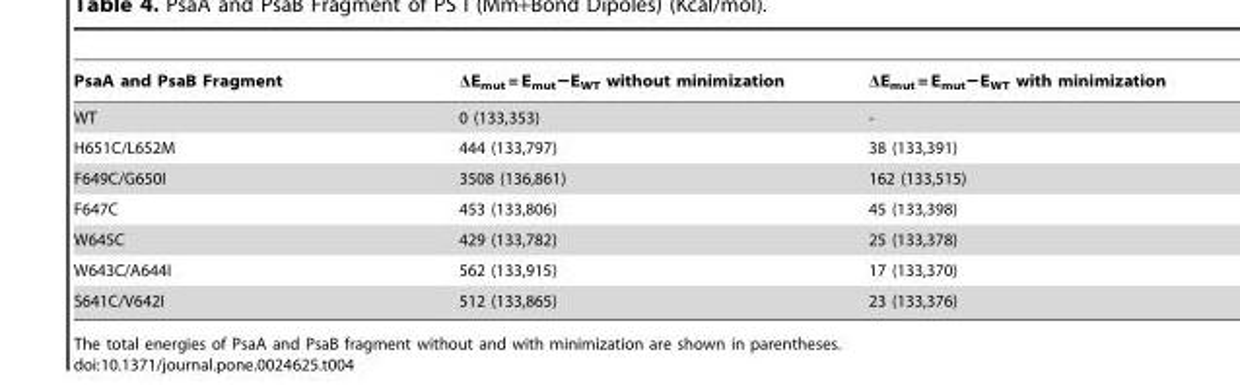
<table><thead><tr><td>PsaA and PsaB Fragment</td><td>ΔE<sub>mut</sub> = E<sub>mut</sub>−E<sub>WT</sub> without minimization</td><td>ΔE<sub>mut</sub> = E<sub>mut</sub>−E<sub>WT</sub> with minimization</td></tr></thead><tbody><tr><td>WT</td><td>0 (133,353)</td><td>-</td></tr><tr><td>H651C/L652M</td><td>444 (133,797)</td><td>38 (133,391)</td></tr><tr><td>F649C/G650I</td><td>3508 (136,861)</td><td>162 (133,515)</td></tr><tr><td>F647C</td><td>453 (133,806)</td><td>45 (133,398)</td></tr><tr><td>W645C</td><td>429 (133,782)</td><td>25 (133,378)</td></tr><tr><td>W643C/A644I</td><td>562 (133,915)</td><td>17 (133,370)</td></tr><tr><td>S641C/V642I</td><td>512 (133,865)</td><td>23 (133,376)</td></tr></tbody></table>